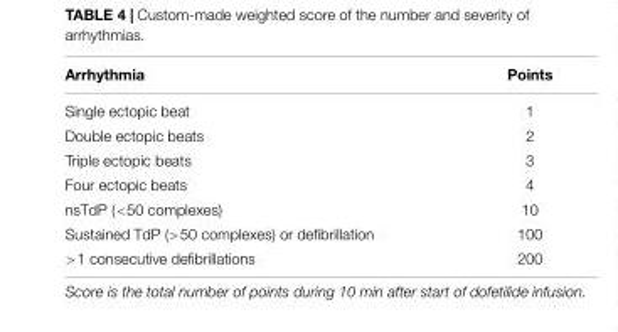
<table><thead><tr><td>Arrhythmia</td><td>Points</td></tr></thead><tbody><tr><td>Single ectopic beat</td><td>1</td></tr><tr><td>Double ectopic beats</td><td>2</td></tr><tr><td>Triple ectopic beats</td><td>3</td></tr><tr><td>Four ectopic beats</td><td>4</td></tr><tr><td>nsTdP (&lt;50 complexes)</td><td>10</td></tr><tr><td>Sustained TdP (&gt;50 complexes) or defibrillation</td><td>100</td></tr><tr><td>&gt;1 consecutive defibrillations</td><td>200</td></tr></tbody></table>